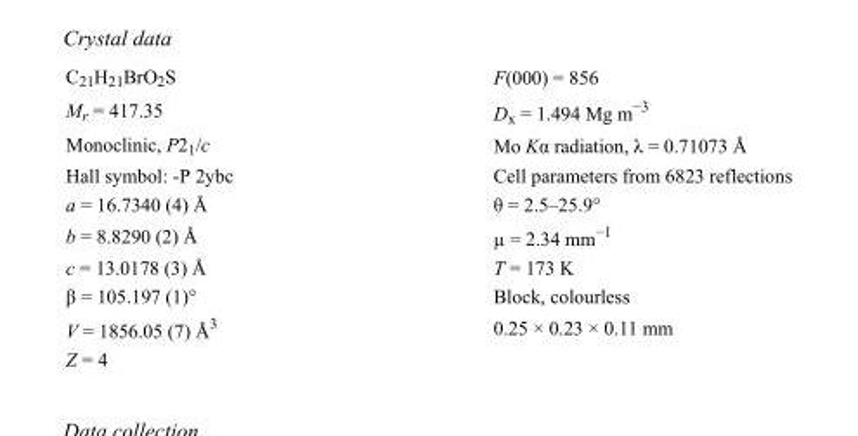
<table><tbody><tr><td>C<sub>21</sub>H<sub>21</sub>BrO<sub>2</sub>S</td><td>F(000) = 856</td></tr><tr><td>M<sub>r</sub> = 417.35</td><td>D<sub>x</sub> = 1.494 Mg m<sup>−3</sup></td></tr><tr><td>Monoclinic, P2<sub>1</sub>/c</td><td>Mo Kα radiation, λ = 0.71073 Å</td></tr><tr><td>Hall symbol: -P 2ybc</td><td>Cell parameters from 6823 reflections</td></tr><tr><td>a = 16.7340 (4) Å</td><td>θ = 2.5–25.9°</td></tr><tr><td>b = 8.8290 (2) Å</td><td>µ = 2.34 mm<sup>−1</sup></td></tr><tr><td>c = 13.0178 (3) Å</td><td>T = 173 K</td></tr><tr><td>β = 105.197 (1)°</td><td>Block, colourless</td></tr><tr><td>V = 1856.05 (7) Å<sup>3</sup></td><td>0.25 × 0.23 × 0.11 mm</td></tr><tr><td>Z = 4</td><td></td></tr></tbody></table>